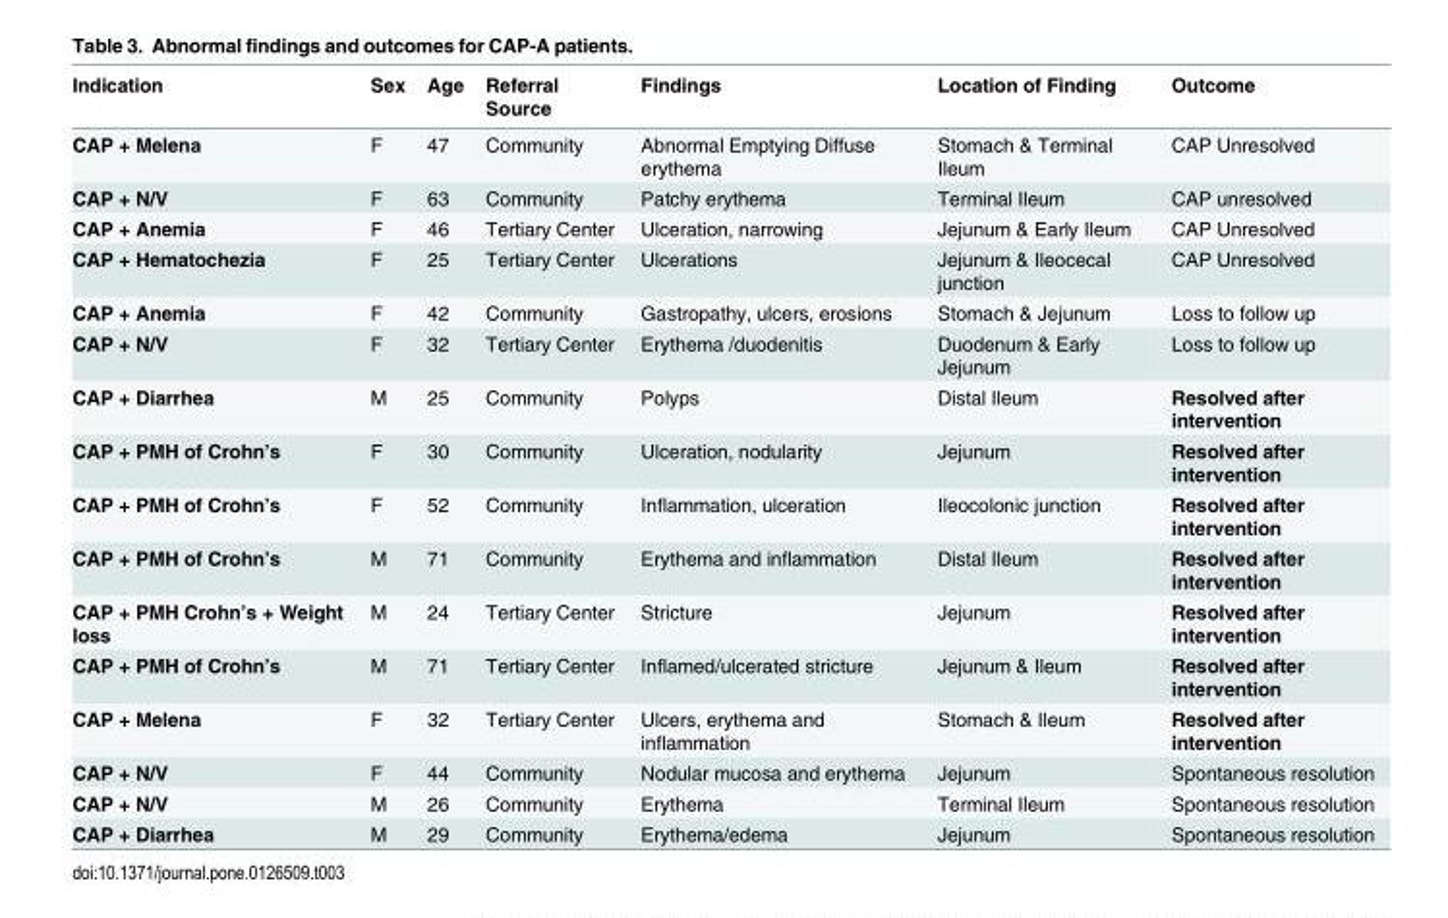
<table><thead><tr><td>Indication</td><td>Sex</td><td>Age</td><td>Referral Source</td><td>Findings</td><td>Location of Finding</td><td>Outcome</td></tr></thead><tbody><tr><td>CAP + Melena</td><td>F</td><td>47</td><td>Community</td><td>Abnormal Emptying Diffuse erythema</td><td>Stomach &amp; Terminal Ileum</td><td>CAP Unresolved</td></tr><tr><td>CAP + N/V</td><td>F</td><td>63</td><td>Community</td><td>Patchy erythema</td><td>Terminal Ileum</td><td>CAP unresolved</td></tr><tr><td>CAP + Anemia</td><td>F</td><td>46</td><td>Tertiary Center</td><td>Ulceration, narrowing</td><td>Jejunum &amp; Early Ileum</td><td>CAP Unresolved</td></tr><tr><td>CAP + Hematochezia</td><td>F</td><td>25</td><td>Tertiary Center</td><td>Ulcerations</td><td>Jejunum &amp; Ileocecal junction</td><td>CAP Unresolved</td></tr><tr><td>CAP + Anemia</td><td>F</td><td>42</td><td>Community</td><td>Gastropathy, ulcers, erosions</td><td>Stomach &amp; Jejunum</td><td>Loss to follow up</td></tr><tr><td>CAP + N/V</td><td>F</td><td>32</td><td>Tertiary Center</td><td>Erythema /duodenitis</td><td>Duodenum &amp; Early Jejunum</td><td>Loss to follow up</td></tr><tr><td>CAP + Diarrhea</td><td>M</td><td>25</td><td>Community</td><td>Polyps</td><td>Distal Ileum</td><td>Resolved after intervention</td></tr><tr><td>CAP + PMH of Crohn’s</td><td>F</td><td>30</td><td>Community</td><td>Ulceration, nodularity</td><td>Jejunum</td><td>Resolved after intervention</td></tr><tr><td>CAP + PMH of Crohn’s</td><td>F</td><td>52</td><td>Community</td><td>Inflammation, ulceration</td><td>Ileocolonic junction</td><td>Resolved after intervention</td></tr><tr><td>CAP + PMH of Crohn’s</td><td>M</td><td>71</td><td>Community</td><td>Erythema and inflammation</td><td>Distal Ileum</td><td>Resolved after intervention</td></tr><tr><td>CAP + PMH Crohn’s + Weight loss</td><td>M</td><td>24</td><td>Tertiary Center</td><td>Stricture</td><td>Jejunum</td><td>Resolved after intervention</td></tr><tr><td>CAP + PMH of Crohn’s</td><td>M</td><td>71</td><td>Tertiary Center</td><td>Inflamed/ulcerated stricture</td><td>Jejunum &amp; Ileum</td><td>Resolved after intervention</td></tr><tr><td>CAP + Melena</td><td>F</td><td>32</td><td>Tertiary Center</td><td>Ulcers, erythema and inflammation</td><td>Stomach &amp; Ileum</td><td>Resolved after intervention</td></tr><tr><td>CAP + N/V</td><td>F</td><td>44</td><td>Community</td><td>Nodular mucosa and erythema</td><td>Jejunum</td><td>Spontaneous resolution</td></tr><tr><td>CAP + N/V</td><td>M</td><td>26</td><td>Community</td><td>Erythema</td><td>Terminal Ileum</td><td>Spontaneous resolution</td></tr><tr><td>CAP + Diarrhea</td><td>M</td><td>29</td><td>Community</td><td>Erythema/edema</td><td>Jejunum</td><td>Spontaneous resolution</td></tr></tbody></table>